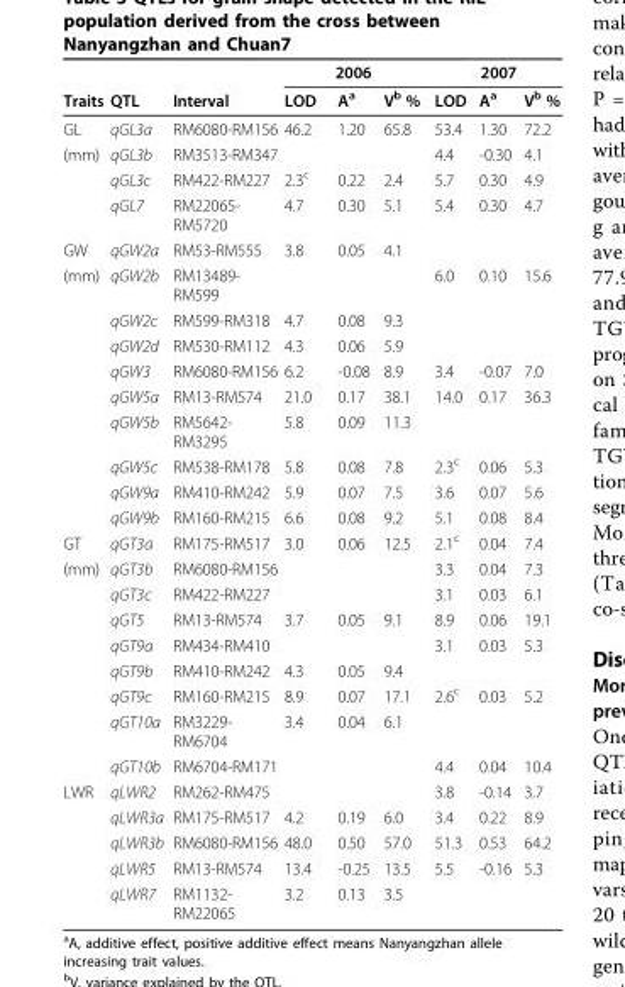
<table><thead><tr><td rowspan="2">Traits</td><td rowspan="2">QTL</td><td rowspan="2">Interval</td><td colspan="3">2006</td><td colspan="3">2007</td></tr><tr><td>LOD</td><td>A<sup>a</sup></td><td>V<sup>b</sup> %</td><td>LOD</td><td>A<sup>a</sup></td><td>V<sup>b</sup> %</td></tr></thead><tbody><tr><td>GL</td><td>qGL3a</td><td>RM6080-RM156</td><td>46.2</td><td>1.20</td><td>65.8</td><td>53.4</td><td>1.30</td><td>72.2</td></tr><tr><td rowspan="3">(mm)</td><td>qGL3b</td><td>RM3513-RM347</td><td></td><td></td><td></td><td>4.4</td><td>-0.30</td><td>4.1</td></tr><tr><td>qGL3c</td><td>RM422-RM227</td><td>2.3<sup>c</sup></td><td>0.22</td><td>2.4</td><td>5.7</td><td>0.30</td><td>4.9</td></tr><tr><td>qGL7</td><td>RM22065- RM5720</td><td>4.7</td><td>0.30</td><td>5.1</td><td>5.4</td><td>0.30</td><td>4.7</td></tr><tr><td>GW</td><td>qGW2a</td><td>RM53-RM555</td><td>3.8</td><td>0.05</td><td>4.1</td><td></td><td></td><td></td></tr><tr><td rowspan="9">(mm)</td><td>qGW2b</td><td>RM13489- RM599</td><td></td><td></td><td></td><td>6.0</td><td>0.10</td><td>15.6</td></tr><tr><td>qGW2c</td><td>RM599-RM318</td><td>4.7</td><td>0.08</td><td>9.3</td><td></td><td></td><td></td></tr><tr><td>qGW2d</td><td>RM530-RM112</td><td>4.3</td><td>0.06</td><td>5.9</td><td></td><td></td><td></td></tr><tr><td>qGW3</td><td>RM6080-RM156</td><td>6.2</td><td>-0.08</td><td>8.9</td><td>3.4</td><td>-0.07</td><td>7.0</td></tr><tr><td>qGW5a</td><td>RM13-RM574</td><td>21.0</td><td>0.17</td><td>38.1</td><td>14.0</td><td>0.17</td><td>36.3</td></tr><tr><td>qGW5b</td><td>RM5642- RM3295</td><td>5.8</td><td>0.09</td><td>11.3</td><td></td><td></td><td></td></tr><tr><td>qGW5c</td><td>RM538-RM178</td><td>5.8</td><td>0.08</td><td>7.8</td><td>2.3<sup>c</sup></td><td>0.06</td><td>5.3</td></tr><tr><td>qGW9a</td><td>RM410-RM242</td><td>5.9</td><td>0.07</td><td>7.5</td><td>3.6</td><td>0.07</td><td>5.6</td></tr><tr><td>qGW9b</td><td>RM160-RM215</td><td>6.6</td><td>0.08</td><td>9.2</td><td>5.1</td><td>0.08</td><td>8.4</td></tr><tr><td>GT</td><td>qGT3a</td><td>RM175-RM517</td><td>3.0</td><td>0.06</td><td>12.5</td><td>2.1<sup>c</sup></td><td>0.04</td><td>7.4</td></tr><tr><td rowspan="8">(mm)</td><td>qGT3b</td><td>RM6080-RM156</td><td></td><td></td><td></td><td>3.3</td><td>0.04</td><td>7.3</td></tr><tr><td>qGT3c</td><td>RM422-RM227</td><td></td><td></td><td></td><td>3.1</td><td>0.03</td><td>6.1</td></tr><tr><td>qGT5</td><td>RM13-RM574</td><td>3.7</td><td>0.05</td><td>9.1</td><td>8.9</td><td>0.06</td><td>19.1</td></tr><tr><td>qGT9a</td><td>RM434-RM410</td><td></td><td></td><td></td><td>3.1</td><td>0.03</td><td>5.3</td></tr><tr><td>qGT9b</td><td>RM410-RM242</td><td>4.3</td><td>0.05</td><td>9.4</td><td></td><td></td><td></td></tr><tr><td>qGT9c</td><td>RM160-RM215</td><td>8.9</td><td>0.07</td><td>17.1</td><td>2.6<sup>c</sup></td><td>0.03</td><td>5.2</td></tr><tr><td>qGT10a</td><td>RM3229- RM6704</td><td>3.4</td><td>0.04</td><td>6.1</td><td></td><td></td><td></td></tr><tr><td>qGT10b</td><td>RM6704-RM171</td><td></td><td></td><td></td><td>4.4</td><td>0.04</td><td>10.4</td></tr><tr><td rowspan="5">LWR</td><td>qLWR2</td><td>RM262-RM475</td><td></td><td></td><td></td><td>3.8</td><td>-0.14</td><td>3.7</td></tr><tr><td>qLWR3a</td><td>RM175-RM517</td><td>4.2</td><td>0.19</td><td>6.0</td><td>3.4</td><td>0.22</td><td>8.9</td></tr><tr><td>qLWR3b</td><td>RM6080-RM156</td><td>48.0</td><td>0.50</td><td>57.0</td><td>51.3</td><td>0.53</td><td>64.2</td></tr><tr><td>qLWR5</td><td>RM13-RM574</td><td>13.4</td><td>-0.25</td><td>13.5</td><td>5.5</td><td>-0.16</td><td>5.3</td></tr><tr><td>qLWR7</td><td>RM1132- RM22065</td><td>3.2</td><td>0.13</td><td>3.5</td><td></td><td></td><td></td></tr></tbody></table>